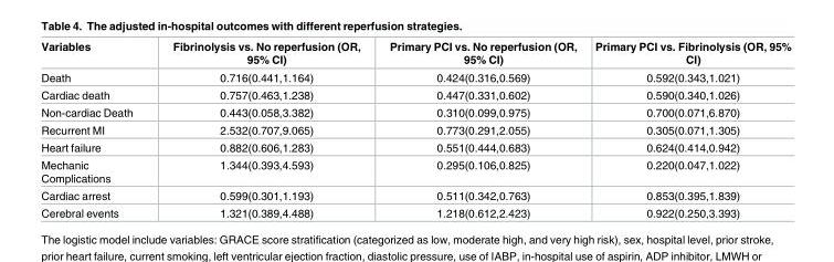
<table><thead><tr><td>Variables</td><td>Fibrinolysis vs. No reperfusion (OR, 95% CI)</td><td>Primary PCI vs. No reperfusion (OR, 95% CI)</td><td>Primary PCI vs. Fibrinolysis (OR, 95% CI)</td></tr></thead><tbody><tr><td>Death</td><td>0.716(0.441,1.164)</td><td>0.424(0.316,0.569)</td><td>0.592(0.343,1.021)</td></tr><tr><td>Cardiac death</td><td>0.757(0.463,1.238)</td><td>0.447(0.331,0.602)</td><td>0.590(0.340,1.026)</td></tr><tr><td>Non-cardiac Death</td><td>0.443(0.058,3.382)</td><td>0.310(0.099,0.975)</td><td>0.700(0.071,6.870)</td></tr><tr><td>Recurrent MI</td><td>2.532(0.707,9.065)</td><td>0.773(0.291,2.055)</td><td>0.305(0.071,1.305)</td></tr><tr><td>Heart failure</td><td>0.882(0.606,1.283)</td><td>0.551(0.444,0.683)</td><td>0.624(0.414,0.942)</td></tr><tr><td>Mechanic Complications</td><td>1.344(0.393,4.593)</td><td>0.295(0.106,0.825)</td><td>0.220(0.047,1.022)</td></tr><tr><td>Cardiac arrest</td><td>0.599(0.301,1.193)</td><td>0.511(0.342,0.763)</td><td>0.853(0.395,1.839)</td></tr><tr><td>Cerebral events</td><td>1.321(0.389,4.488)</td><td>1.218(0.612,2.423)</td><td>0.922(0.250,3.393)</td></tr></tbody></table>